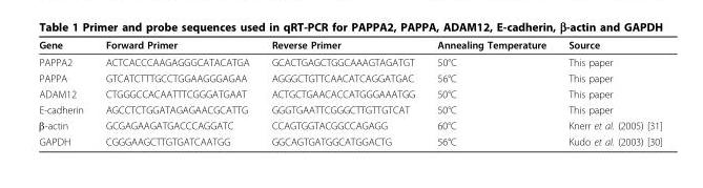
<table><thead><tr><td>Gene</td><td>Forward Primer</td><td>Reverse Primer</td><td>Annealing Temperature</td><td>Source</td></tr></thead><tbody><tr><td>PAPPA2</td><td>ACTCACCCAAGAGGGCATACATGA</td><td>GCACTGAGCTGGCAAAGTAGATGT</td><td>50°C</td><td>This paper</td></tr><tr><td>PAPPA</td><td>GTCATCTTTGCCTGGAAGGGAGAA</td><td>AGGGCTGTTCAACATCAGGATGAC</td><td>56°C</td><td>This paper</td></tr><tr><td>ADAM12</td><td>CTGGGCCACAATTTCGGGATGAAT</td><td>ACTGCTGAACACCATGGGAAATGG</td><td>50°C</td><td>This paper</td></tr><tr><td>E-cadherin</td><td>AGCCTCTGGATAGAGAACGCATTG</td><td>GGGTGAATTCGGGCTTGTTGTCAT</td><td>50°C</td><td>This paper</td></tr><tr><td>β-actin</td><td>GCGAGAAGATGACCCAGGATC</td><td>CCAGTGGTACGGCCAGAGG</td><td>60°C</td><td>Knerr et al. (2005) [31]</td></tr><tr><td>GAPDH</td><td>CGGGAAGCTTGTGATCAATGG</td><td>GGCAGTGATGGCATGGACTG</td><td>56°C</td><td>Kudo et al. (2003) [30]</td></tr></tbody></table>